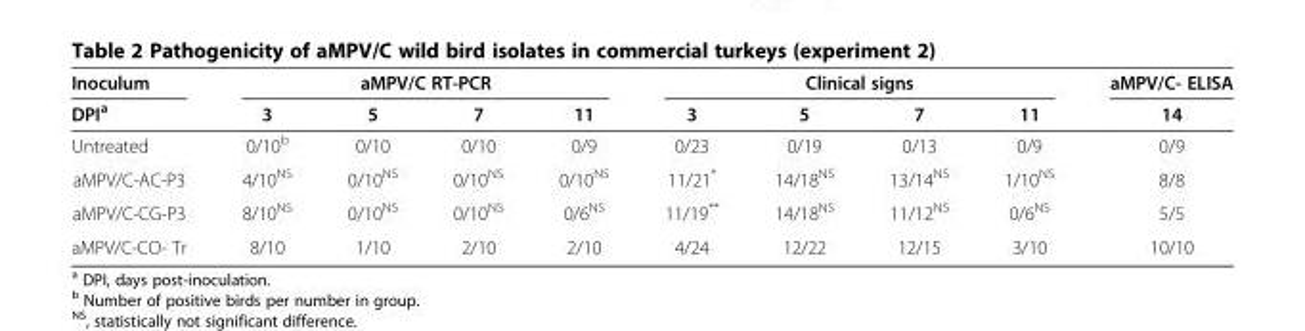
<table><thead><tr><td rowspan="2">Inoculum DPI<sup>a</sup></td><td colspan="4">aMPV/C RT-PCR</td><td colspan="4">Clinical signs</td><td rowspan="2">aMPV/C- ELISA 14</td></tr><tr><td>3</td><td>5</td><td>7</td><td>11</td><td>3</td><td>5</td><td>7</td><td>11</td></tr></thead><tbody><tr><td>Untreated</td><td>0/10<sup>b</sup></td><td>0/10</td><td>0/10</td><td>0/9</td><td>0/23</td><td>0/19</td><td>0/13</td><td>0/9</td><td>0/9</td></tr><tr><td>aMPV/C-AC-P3</td><td>4/10<sup>NS</sup></td><td>0/10<sup>NS</sup></td><td>0/10<sup>NS</sup></td><td>0/10<sup>NS</sup></td><td>11/21*</td><td>14/18<sup>NS</sup></td><td>13/14<sup>NS</sup></td><td>1/10<sup>NS</sup></td><td>8/8</td></tr><tr><td>aMPV/C-CG-P3</td><td>8/10<sup>NS</sup></td><td>0/10<sup>NS</sup></td><td>0/10<sup>NS</sup></td><td>0/6<sup>NS</sup></td><td>11/19**</td><td>14/18<sup>NS</sup></td><td>11/12<sup>NS</sup></td><td>0/6<sup>NS</sup></td><td>5/5</td></tr><tr><td>aMPV/C-CO- Tr</td><td>8/10</td><td>1/10</td><td>2/10</td><td>2/10</td><td>4/24</td><td>12/22</td><td>12/15</td><td>3/10</td><td>10/10</td></tr></tbody></table>